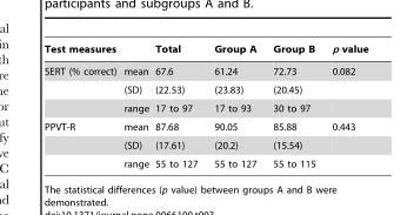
<table><thead><tr><td colspan="2">Test measures</td><td rowspan="2">Total 67.6</td><td rowspan="2">Group A 61.24</td><td rowspan="2">Group B 72.73</td><td rowspan="2">p value 0.082</td></tr><tr><td>SERT (% correct)</td><td>mean</td></tr></thead><tbody><tr><td></td><td>(SD)</td><td>(22.53)</td><td>(23.83)</td><td>(20.45)</td><td></td></tr><tr><td></td><td>range</td><td>17 to 97</td><td>17 to 93</td><td>30 to 97</td><td></td></tr><tr><td rowspan="3">PPVT-R</td><td>mean</td><td>87.68</td><td>90.05</td><td>85.88</td><td>0.443</td></tr><tr><td>(SD)</td><td>(17.61)</td><td>(20.2)</td><td>(15.54)</td><td></td></tr><tr><td>range</td><td>55 to 127</td><td>55 to 127</td><td>55 to 115</td><td></td></tr></tbody></table>